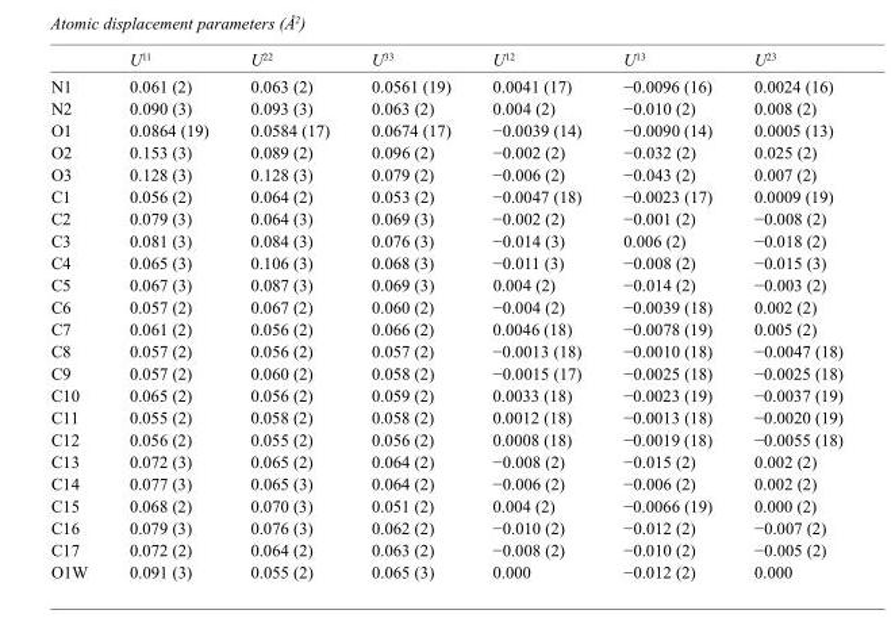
<table><thead><tr><td></td><td>U<sup>11</sup></td><td>U<sup>22</sup></td><td>U<sup>33</sup></td><td>U<sup>12</sup></td><td>U<sup>13</sup></td><td>U<sup>23</sup></td></tr></thead><tbody><tr><td>N1</td><td>0.061 (2)</td><td>0.063 (2)</td><td>0.0561 (19)</td><td>0.0041 (17)</td><td>−0.0096 (16)</td><td>0.0024 (16)</td></tr><tr><td>N2</td><td>0.090 (3)</td><td>0.093 (3)</td><td>0.063 (2)</td><td>0.004 (2)</td><td>−0.010 (2)</td><td>0.008 (2)</td></tr><tr><td>O1</td><td>0.0864 (19)</td><td>0.0584 (17)</td><td>0.0674 (17)</td><td>−0.0039 (14)</td><td>−0.0090 (14)</td><td>0.0005 (13)</td></tr><tr><td>O2</td><td>0.153 (3)</td><td>0.089 (2)</td><td>0.096 (2)</td><td>−0.002 (2)</td><td>−0.032 (2)</td><td>0.025 (2)</td></tr><tr><td>O3</td><td>0.128 (3)</td><td>0.128 (3)</td><td>0.079 (2)</td><td>−0.006 (2)</td><td>−0.043 (2)</td><td>0.007 (2)</td></tr><tr><td>C1</td><td>0.056 (2)</td><td>0.064 (2)</td><td>0.053 (2)</td><td>−0.0047 (18)</td><td>−0.0023 (17)</td><td>0.0009 (19)</td></tr><tr><td>C2</td><td>0.079 (3)</td><td>0.064 (3)</td><td>0.069 (3)</td><td>−0.002 (2)</td><td>−0.001 (2)</td><td>−0.008 (2)</td></tr><tr><td>C3</td><td>0.081 (3)</td><td>0.084 (3)</td><td>0.076 (3)</td><td>−0.014 (3)</td><td>0.006 (2)</td><td>−0.018 (2)</td></tr><tr><td>C4</td><td>0.065 (3)</td><td>0.106 (3)</td><td>0.068 (3)</td><td>−0.011 (3)</td><td>−0.008 (2)</td><td>−0.015 (3)</td></tr><tr><td>C5</td><td>0.067 (3)</td><td>0.087 (3)</td><td>0.069 (3)</td><td>0.004 (2)</td><td>−0.014 (2)</td><td>−0.003 (2)</td></tr><tr><td>C6</td><td>0.057 (2)</td><td>0.067 (2)</td><td>0.060 (2)</td><td>−0.004 (2)</td><td>−0.0039 (18)</td><td>0.002 (2)</td></tr><tr><td>C7</td><td>0.061 (2)</td><td>0.056 (2)</td><td>0.066 (2)</td><td>0.0046 (18)</td><td>−0.0078 (19)</td><td>0.005 (2)</td></tr><tr><td>C8</td><td>0.057 (2)</td><td>0.056 (2)</td><td>0.057 (2)</td><td>−0.0013 (18)</td><td>−0.0010 (18)</td><td>−0.0047 (18)</td></tr><tr><td>C9</td><td>0.057 (2)</td><td>0.060 (2)</td><td>0.058 (2)</td><td>−0.0015 (17)</td><td>−0.0025 (18)</td><td>−0.0025 (18)</td></tr><tr><td>C10</td><td>0.065 (2)</td><td>0.056 (2)</td><td>0.059 (2)</td><td>0.0033 (18)</td><td>−0.0023 (19)</td><td>−0.0037 (19)</td></tr><tr><td>C11</td><td>0.055 (2)</td><td>0.058 (2)</td><td>0.058 (2)</td><td>0.0012 (18)</td><td>−0.0013 (18)</td><td>−0.0020 (19)</td></tr><tr><td>C12</td><td>0.056 (2)</td><td>0.055 (2)</td><td>0.056 (2)</td><td>0.0008 (18)</td><td>−0.0019 (18)</td><td>−0.0055 (18)</td></tr><tr><td>C13</td><td>0.072 (3)</td><td>0.065 (2)</td><td>0.064 (2)</td><td>−0.008 (2)</td><td>−0.015 (2)</td><td>0.002 (2)</td></tr><tr><td>C14</td><td>0.077 (3)</td><td>0.065 (3)</td><td>0.064 (2)</td><td>−0.006 (2)</td><td>−0.006 (2)</td><td>0.002 (2)</td></tr><tr><td>C15</td><td>0.068 (2)</td><td>0.070 (3)</td><td>0.051 (2)</td><td>0.004 (2)</td><td>−0.0066 (19)</td><td>0.000 (2)</td></tr><tr><td>C16</td><td>0.079 (3)</td><td>0.076 (3)</td><td>0.062 (2)</td><td>−0.010 (2)</td><td>−0.012 (2)</td><td>−0.007 (2)</td></tr><tr><td>C17</td><td>0.072 (2)</td><td>0.064 (2)</td><td>0.063 (2)</td><td>−0.008 (2)</td><td>−0.010 (2)</td><td>−0.005 (2)</td></tr><tr><td>O1W</td><td>0.091 (3)</td><td>0.055 (2)</td><td>0.065 (3)</td><td>0.000</td><td>−0.012 (2)</td><td>0.000</td></tr></tbody></table>